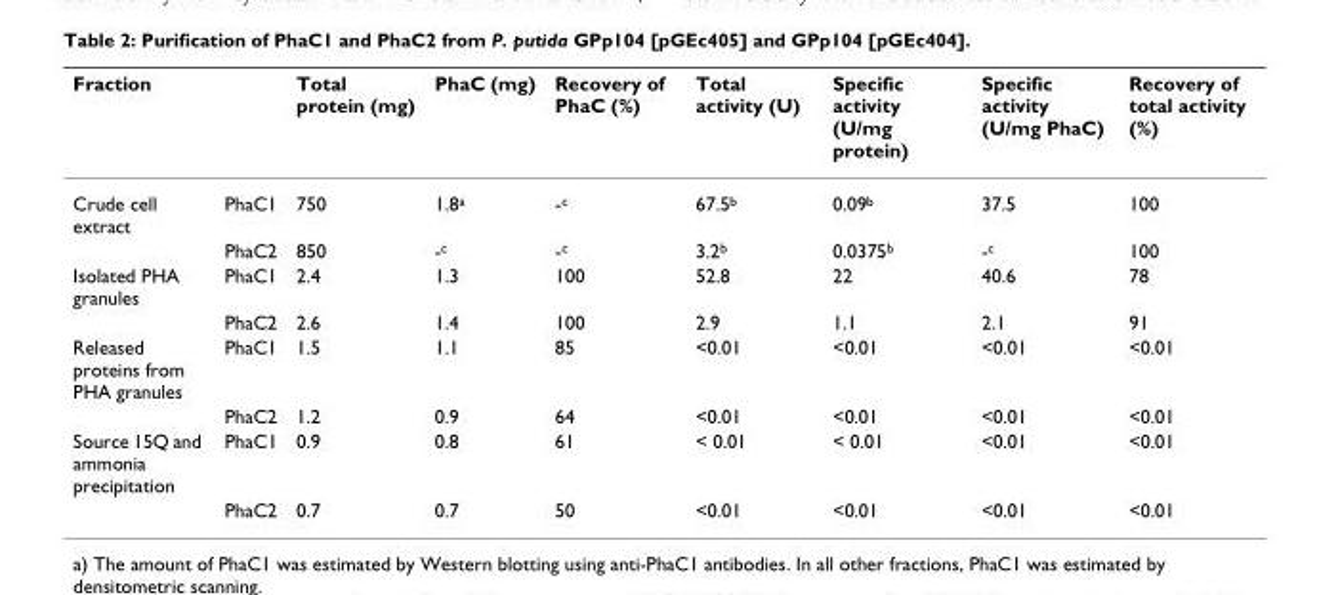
<table><thead><tr><td>Fraction</td><td></td><td>Total protein (mg)</td><td>PhaC (mg)</td><td>Recovery of PhaC (%)</td><td>Total activity (U)</td><td>Specific activity (U/mg protein)</td><td>Specific activity (U/mg PhaC)</td><td>Recovery of total activity (%)</td></tr></thead><tbody><tr><td rowspan="2">Crude cell extract</td><td>PhaC1</td><td>750</td><td>1.8<sup>a</sup></td><td>-<sup>c</sup></td><td>67.5<sup>b</sup></td><td>0.09<sup>b</sup></td><td>37.5</td><td>100</td></tr><tr><td>PhaC2</td><td>850</td><td>-<sup>c</sup></td><td>-<sup>c</sup></td><td>3.2<sup>b</sup></td><td>0.0375<sup>b</sup></td><td>-<sup>c</sup></td><td>100</td></tr><tr><td rowspan="2">Isolated PHA granules</td><td>PhaC1</td><td>2.4</td><td>1.3</td><td>100</td><td>52.8</td><td>22</td><td>40.6</td><td>78</td></tr><tr><td>PhaC2</td><td>2.6</td><td>1.4</td><td>100</td><td>2.9</td><td>1.1</td><td>2.1</td><td>91</td></tr><tr><td rowspan="2">Released proteins from PHA granules</td><td>PhaC1</td><td>1.5</td><td>1.1</td><td>85</td><td>&lt;0.01</td><td>&lt;0.01</td><td>&lt;0.01</td><td>&lt;0.01</td></tr><tr><td>PhaC2</td><td>1.2</td><td>0.9</td><td>64</td><td>&lt;0.01</td><td>&lt;0.01</td><td>&lt;0.01</td><td>&lt;0.01</td></tr><tr><td rowspan="2">Source 15Q and ammonia precipitation</td><td>PhaC1</td><td>0.9</td><td>0.8</td><td>61</td><td>&lt; 0.01</td><td>&lt; 0.01</td><td>&lt;0.01</td><td>&lt;0.01</td></tr><tr><td>PhaC2</td><td>0.7</td><td>0.7</td><td>50</td><td>&lt;0.01</td><td>&lt;0.01</td><td>&lt;0.01</td><td>&lt;0.01</td></tr></tbody></table>